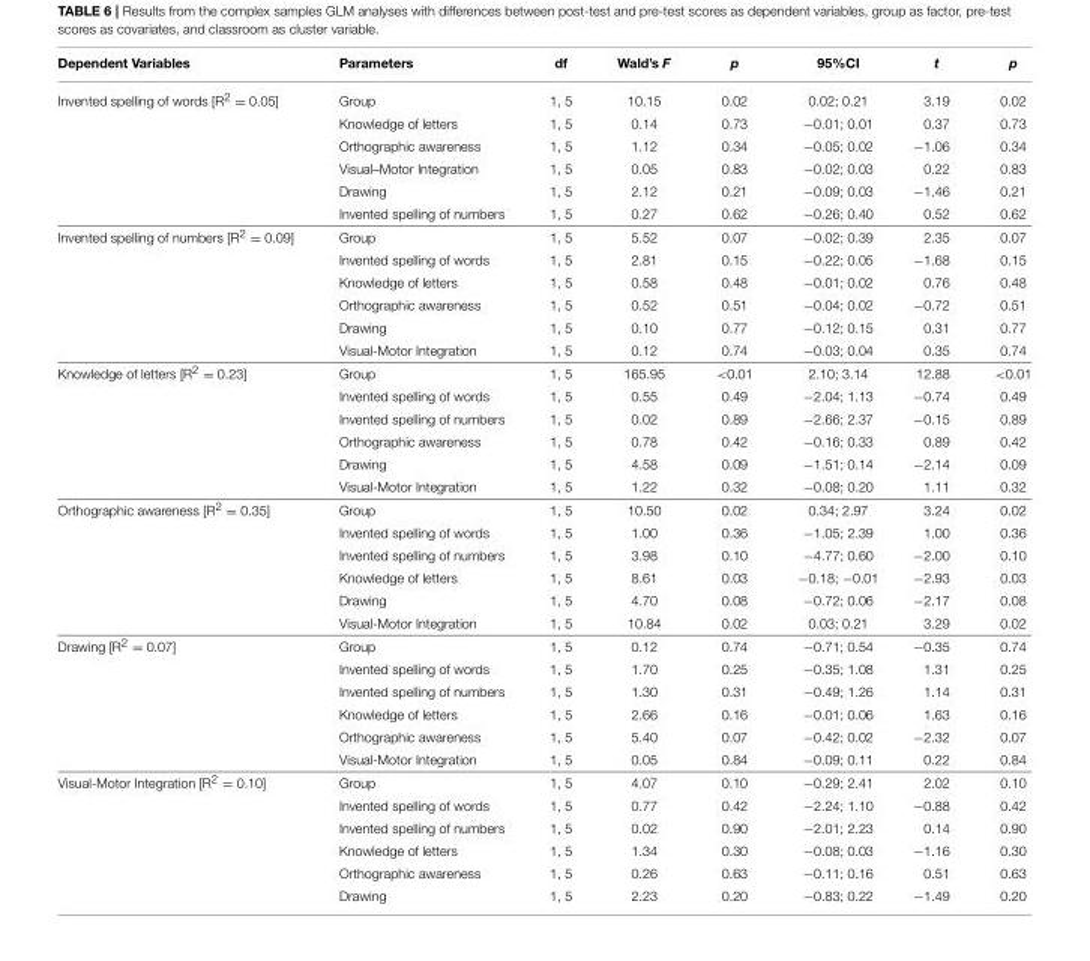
<table><thead><tr><td>Dependent Variables</td><td>Parameters</td><td>df</td><td>Wald’s F</td><td>p</td><td>95%CI</td><td>t</td><td>p</td></tr></thead><tbody><tr><td rowspan="6">Invented spelling of words [R<sup>2</sup> = 0.05]</td><td>Group</td><td>1, 5</td><td>10.15</td><td>0.02</td><td>0.02; 0.21</td><td>3.19</td><td>0.02</td></tr><tr><td>Knowledge of letters</td><td>1, 5</td><td>0.14</td><td>0.73</td><td>−0.01; 0.01</td><td>0.37</td><td>0.73</td></tr><tr><td>Orthographic awareness</td><td>1, 5</td><td>1.12</td><td>0.34</td><td>−0.05; 0.02</td><td>−1.06</td><td>0.34</td></tr><tr><td>Visual–Motor Integration</td><td>1, 5</td><td>0.05</td><td>0.83</td><td>−0.02; 0.03</td><td>0.22</td><td>0.83</td></tr><tr><td>Drawing</td><td>1, 5</td><td>2.12</td><td>0.21</td><td>−0.09; 0.03</td><td>−1.46</td><td>0.21</td></tr><tr><td>Invented spelling of numbers</td><td>1, 5</td><td>0.27</td><td>0.62</td><td>−0.26; 0.40</td><td>0.52</td><td>0.62</td></tr><tr><td rowspan="6">Invented spelling of numbers [R<sup>2</sup> = 0.09]</td><td>Group</td><td>1, 5</td><td>5.52</td><td>0.07</td><td>−0.02; 0.39</td><td>2.35</td><td>0.07</td></tr><tr><td>Invented spelling of words</td><td>1, 5</td><td>2.81</td><td>0.15</td><td>−0.22; 0.05</td><td>−1.68</td><td>0.15</td></tr><tr><td>Knowledge of letters</td><td>1, 5</td><td>0.58</td><td>0.48</td><td>−0.01; 0.02</td><td>0.76</td><td>0.48</td></tr><tr><td>Orthographic awareness</td><td>1, 5</td><td>0.52</td><td>0.51</td><td>−0.04; 0.02</td><td>−0.72</td><td>0.51</td></tr><tr><td>Drawing</td><td>1, 5</td><td>0.10</td><td>0.77</td><td>−0.12; 0.15</td><td>0.31</td><td>0.77</td></tr><tr><td>Visual-Motor Integration</td><td>1, 5</td><td>0.12</td><td>0.74</td><td>−0.03; 0.04</td><td>0.35</td><td>0.74</td></tr><tr><td rowspan="6">Knowledge of letters [R<sup>2</sup> = 0.23]</td><td>Group</td><td>1, 5</td><td>165.95</td><td>&lt;0.01</td><td>2.10; 3.14</td><td>12.88</td><td>&lt;0.01</td></tr><tr><td>Invented spelling of words</td><td>1, 5</td><td>0.55</td><td>0.49</td><td>−2.04; 1.13</td><td>−0.74</td><td>0.49</td></tr><tr><td>Invented spelling of numbers</td><td>1, 5</td><td>0.02</td><td>0.89</td><td>−2.66; 2.37</td><td>−0.15</td><td>0.89</td></tr><tr><td>Orthographic awareness</td><td>1, 5</td><td>0.78</td><td>0.42</td><td>−0.16; 0.33</td><td>0.89</td><td>0.42</td></tr><tr><td>Drawing</td><td>1, 5</td><td>4.58</td><td>0.09</td><td>−1.51; 0.14</td><td>−2.14</td><td>0.09</td></tr><tr><td>Visual-Motor Integration</td><td>1, 5</td><td>1.22</td><td>0.32</td><td>−0.08; 0.20</td><td>1.11</td><td>0.32</td></tr><tr><td rowspan="6">Orthographic awareness [R<sup>2</sup> = 0.35]</td><td>Group</td><td>1, 5</td><td>10.50</td><td>0.02</td><td>0.34; 2.97</td><td>3.24</td><td>0.02</td></tr><tr><td>Invented spelling of words</td><td>1, 5</td><td>1.00</td><td>0.36</td><td>−1.05; 2.39</td><td>1.00</td><td>0.36</td></tr><tr><td>Invented spelling of numbers</td><td>1, 5</td><td>3.98</td><td>0.10</td><td>−4.77; 0.60</td><td>−2.00</td><td>0.10</td></tr><tr><td>Knowledge of letters</td><td>1, 5</td><td>8.61</td><td>0.03</td><td>−0.18; −0.01</td><td>−2.93</td><td>0.03</td></tr><tr><td>Drawing</td><td>1, 5</td><td>4.70</td><td>0.08</td><td>−0.72; 0.06</td><td>−2.17</td><td>0.08</td></tr><tr><td>Visual-Motor Integration</td><td>1, 5</td><td>10.84</td><td>0.02</td><td>0.03; 0.21</td><td>3.29</td><td>0.02</td></tr><tr><td rowspan="6">Drawing [R<sup>2</sup> = 0.07]</td><td>Group</td><td>1, 5</td><td>0.12</td><td>0.74</td><td>−0.71; 0.54</td><td>−0.35</td><td>0.74</td></tr><tr><td>Invented spelling of words</td><td>1, 5</td><td>1.70</td><td>0.25</td><td>−0.35; 1.08</td><td>1.31</td><td>0.25</td></tr><tr><td>Invented spelling of numbers</td><td>1, 5</td><td>1.30</td><td>0.31</td><td>−0.49; 1.26</td><td>1.14</td><td>0.31</td></tr><tr><td>Knowledge of letters</td><td>1, 5</td><td>2.66</td><td>0.16</td><td>−0.01; 0.06</td><td>1.63</td><td>0.16</td></tr><tr><td>Orthographic awareness</td><td>1, 5</td><td>5.40</td><td>0.07</td><td>−0.42; 0.02</td><td>−2.32</td><td>0.07</td></tr><tr><td>Visual-Motor Integration</td><td>1, 5</td><td>0.05</td><td>0.84</td><td>−0.09; 0.11</td><td>0.22</td><td>0.84</td></tr><tr><td rowspan="6">Visual-Motor Integration [R<sup>2</sup> = 0.10]</td><td>Group</td><td>1, 5</td><td>4.07</td><td>0.10</td><td>−0.29; 2.41</td><td>2.02</td><td>0.10</td></tr><tr><td>Invented spelling of words</td><td>1, 5</td><td>0.77</td><td>0.42</td><td>−2.24; 1.10</td><td>−0.88</td><td>0.42</td></tr><tr><td>Invented spelling of numbers</td><td>1, 5</td><td>0.02</td><td>0.90</td><td>−2.01; 2.23</td><td>0.14</td><td>0.90</td></tr><tr><td>Knowledge of letters</td><td>1, 5</td><td>1.34</td><td>0.30</td><td>−0.08; 0.03</td><td>−1.16</td><td>0.30</td></tr><tr><td>Orthographic awareness</td><td>1, 5</td><td>0.26</td><td>0.63</td><td>−0.11; 0.16</td><td>0.51</td><td>0.63</td></tr><tr><td>Drawing</td><td>1, 5</td><td>2.23</td><td>0.20</td><td>−0.83; 0.22</td><td>−1.49</td><td>0.20</td></tr></tbody></table>